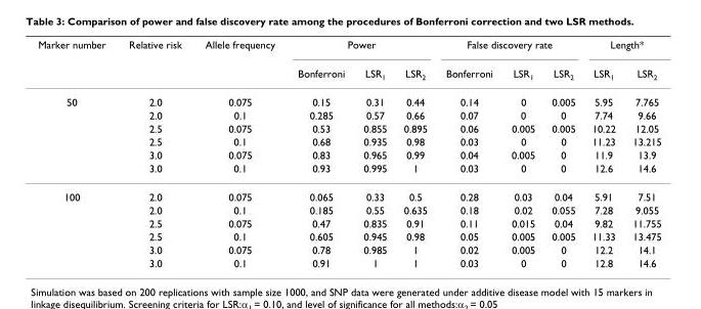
<table><thead><tr><td rowspan="2">Marker number</td><td rowspan="2">Relative risk</td><td rowspan="2">Allele frequency</td><td colspan="3">Power</td><td colspan="3">False discovery rate</td><td colspan="2">Length*</td></tr><tr><td>Bonferroni</td><td>LSR<sub>1</sub></td><td>LSR<sub>2</sub></td><td>Bonferroni</td><td>LSR<sub>1</sub></td><td>LSR<sub>2</sub></td><td>LSR<sub>1</sub></td><td>LSR<sub>2</sub></td></tr></thead><tbody><tr><td rowspan="6">50</td><td>2.0</td><td>0.075</td><td>0.15</td><td>0.31</td><td>0.44</td><td>0.14</td><td>0</td><td>0.005</td><td>5.95</td><td>7.765</td></tr><tr><td>2.0</td><td>0.1</td><td>0.285</td><td>0.57</td><td>0.66</td><td>0.07</td><td>0</td><td>0</td><td>7.74</td><td>9.66</td></tr><tr><td>2.5</td><td>0.075</td><td>0.53</td><td>0.855</td><td>0.895</td><td>0.06</td><td>0.005</td><td>0.005</td><td>10.22</td><td>12.05</td></tr><tr><td>2.5</td><td>0.1</td><td>0.68</td><td>0.935</td><td>0.98</td><td>0.03</td><td>0</td><td>0</td><td>11.23</td><td>13.215</td></tr><tr><td>3.0</td><td>0.075</td><td>0.83</td><td>0.965</td><td>0.99</td><td>0.04</td><td>0.005</td><td>0</td><td>11.9</td><td>13.9</td></tr><tr><td>3.0</td><td>0.1</td><td>0.93</td><td>0.995</td><td>1</td><td>0.03</td><td>0</td><td>0</td><td>12.6</td><td>14.6</td></tr><tr><td rowspan="6">100</td><td>2.0</td><td>0.075</td><td>0.065</td><td>0.33</td><td>0.5</td><td>0.28</td><td>0.03</td><td>0.04</td><td>5.91</td><td>7.51</td></tr><tr><td>2.0</td><td>0.1</td><td>0.185</td><td>0.55</td><td>0.635</td><td>0.18</td><td>0.02</td><td>0.055</td><td>7.28</td><td>9.055</td></tr><tr><td>2.5</td><td>0.075</td><td>0.47</td><td>0.835</td><td>0.91</td><td>0.11</td><td>0.015</td><td>0.04</td><td>9.82</td><td>11.755</td></tr><tr><td>2.5</td><td>0.1</td><td>0.605</td><td>0.945</td><td>0.98</td><td>0.05</td><td>0.005</td><td>0.005</td><td>11.33</td><td>13.475</td></tr><tr><td>3.0</td><td>0.075</td><td>0.78</td><td>0.985</td><td>1</td><td>0.02</td><td>0.005</td><td>0</td><td>12.2</td><td>14.1</td></tr><tr><td>3.0</td><td>0.1</td><td>0.91</td><td>1</td><td>1</td><td>0.03</td><td>0</td><td>0</td><td>12.8</td><td>14.6</td></tr></tbody></table>